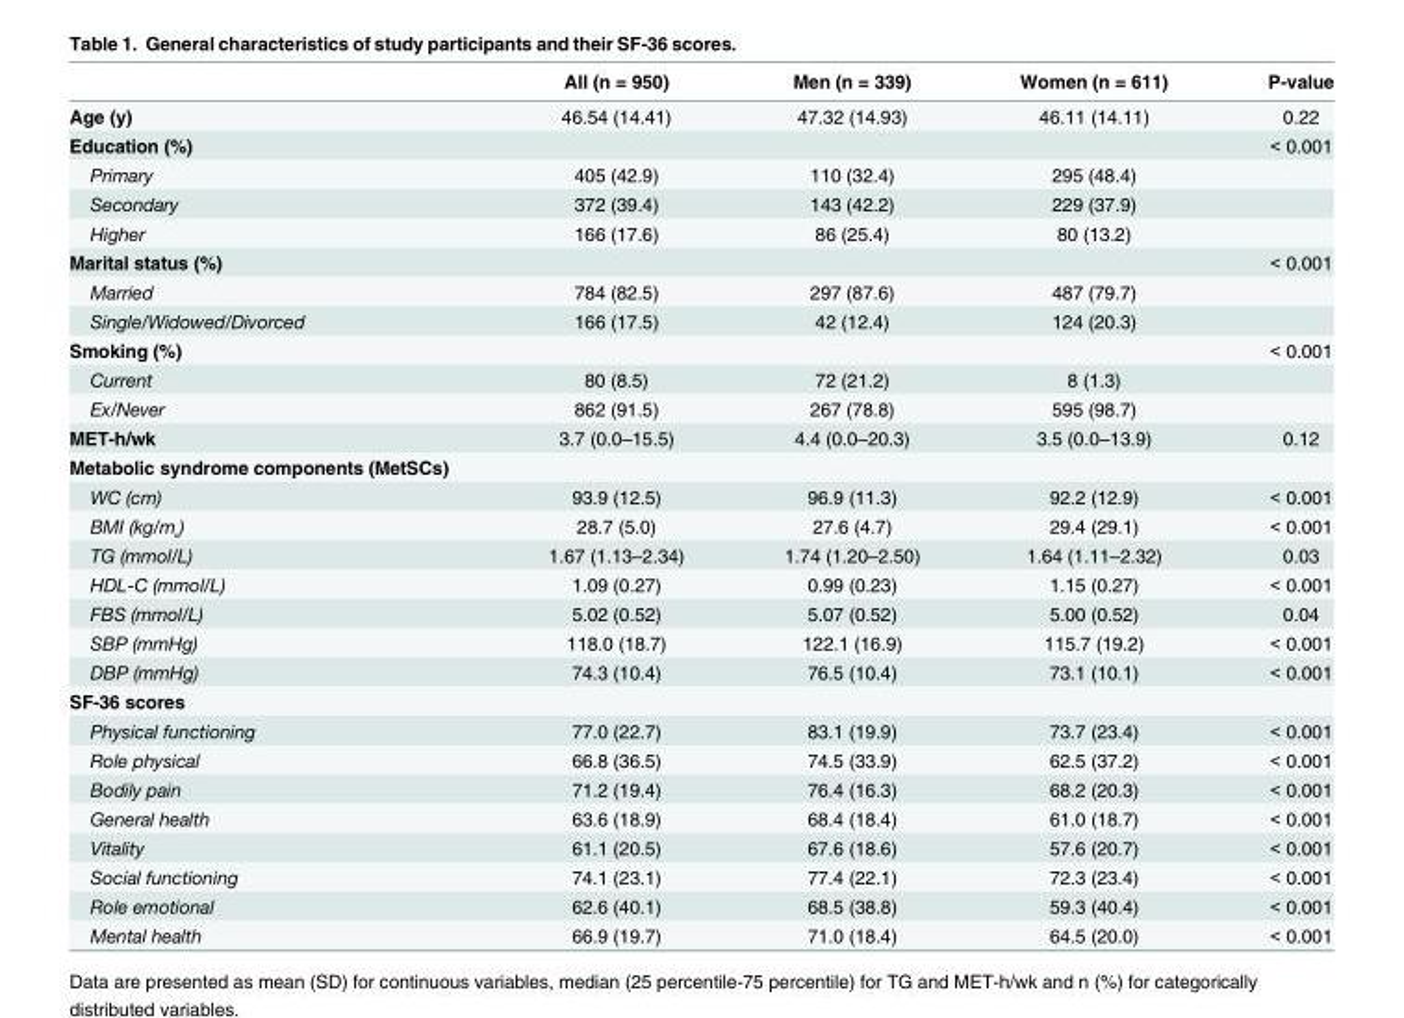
<table><thead><tr><td></td><td>All (n = 950)</td><td>Men (n = 339)</td><td>Women (n = 611)</td><td>P-value</td></tr></thead><tbody><tr><td>Age (y)</td><td>46.54 (14.41)</td><td>47.32 (14.93)</td><td>46.11 (14.11)</td><td>0.22</td></tr><tr><td>Education (%)</td><td></td><td></td><td></td><td>&lt; 0.001</td></tr><tr><td>Primary</td><td>405 (42.9)</td><td>110 (32.4)</td><td>295 (48.4)</td><td></td></tr><tr><td>Secondary</td><td>372 (39.4)</td><td>143 (42.2)</td><td>229 (37.9)</td><td></td></tr><tr><td>Higher</td><td>166 (17.6)</td><td>86 (25.4)</td><td>80 (13.2)</td><td></td></tr><tr><td>Marital status (%)</td><td></td><td></td><td></td><td>&lt; 0.001</td></tr><tr><td>Married</td><td>784 (82.5)</td><td>297 (87.6)</td><td>487 (79.7)</td><td></td></tr><tr><td>Single/Widowed/Divorced</td><td>166 (17.5)</td><td>42 (12.4)</td><td>124 (20.3)</td><td></td></tr><tr><td>Smoking (%)</td><td></td><td></td><td></td><td>&lt; 0.001</td></tr><tr><td>Current</td><td>80 (8.5)</td><td>72 (21.2)</td><td>8 (1.3)</td><td></td></tr><tr><td>Ex/Never</td><td>862 (91.5)</td><td>267 (78.8)</td><td>595 (98.7)</td><td></td></tr><tr><td>MET-h/wk</td><td>3.7 (0.0–15.5)</td><td>4.4 (0.0–20.3)</td><td>3.5 (0.0–13.9)</td><td>0.12</td></tr><tr><td colspan="5">Metabolic syndrome components (MetSCs)</td></tr><tr><td>WC (cm)</td><td>93.9 (12.5)</td><td>96.9 (11.3)</td><td>92.2 (12.9)</td><td>&lt; 0.001</td></tr><tr><td>BMI (kg/m²)</td><td>28.7 (5.0)</td><td>27.6 (4.7)</td><td>29.4 (29.1)</td><td>&lt; 0.001</td></tr><tr><td>TG (mmol/L)</td><td>1.67 (1.13–2.34)</td><td>1.74 (1.20–2.50)</td><td>1.64 (1.11–2.32)</td><td>0.03</td></tr><tr><td>HDL-C (mmol/L)</td><td>1.09 (0.27)</td><td>0.99 (0.23)</td><td>1.15 (0.27)</td><td>&lt; 0.001</td></tr><tr><td>FBS (mmol/L)</td><td>5.02 (0.52)</td><td>5.07 (0.52)</td><td>5.00 (0.52)</td><td>0.04</td></tr><tr><td>SBP (mmHg)</td><td>118.0 (18.7)</td><td>122.1 (16.9)</td><td>115.7 (19.2)</td><td>&lt; 0.001</td></tr><tr><td>DBP (mmHg)</td><td>74.3 (10.4)</td><td>76.5 (10.4)</td><td>73.1 (10.1)</td><td>&lt; 0.001</td></tr><tr><td colspan="5">SF-36 scores</td></tr><tr><td>Physical functioning</td><td>77.0 (22.7)</td><td>83.1 (19.9)</td><td>73.7 (23.4)</td><td>&lt; 0.001</td></tr><tr><td>Role physical</td><td>66.8 (36.5)</td><td>74.5 (33.9)</td><td>62.5 (37.2)</td><td>&lt; 0.001</td></tr><tr><td>Bodily pain</td><td>71.2 (19.4)</td><td>76.4 (16.3)</td><td>68.2 (20.3)</td><td>&lt; 0.001</td></tr><tr><td>General health</td><td>63.6 (18.9)</td><td>68.4 (18.4)</td><td>61.0 (18.7)</td><td>&lt; 0.001</td></tr><tr><td>Vitality</td><td>61.1 (20.5)</td><td>67.6 (18.6)</td><td>57.6 (20.7)</td><td>&lt; 0.001</td></tr><tr><td>Social functioning</td><td>74.1 (23.1)</td><td>77.4 (22.1)</td><td>72.3 (23.4)</td><td>&lt; 0.001</td></tr><tr><td>Role emotional</td><td>62.6 (40.1)</td><td>68.5 (38.8)</td><td>59.3 (40.4)</td><td>&lt; 0.001</td></tr><tr><td>Mental health</td><td>66.9 (19.7)</td><td>71.0 (18.4)</td><td>64.5 (20.0)</td><td>&lt; 0.001</td></tr></tbody></table>